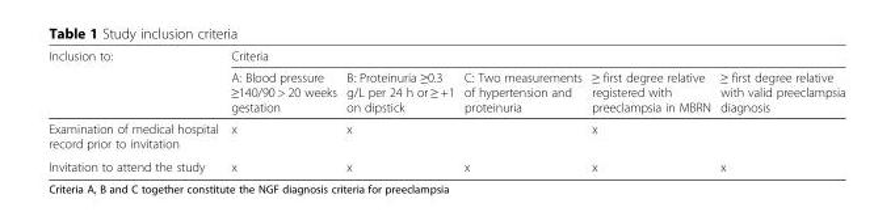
<table><thead><tr><td rowspan="2">Inclusion to:</td><td colspan="5">Criteria</td></tr><tr><td>A: Blood pressure ≥140/90 &gt; 20 weeks gestation</td><td>B: Proteinuria ≥0.3 g/L per 24 h or ≥ +1 on dipstick</td><td>C: Two measurements of hypertension and proteinuria</td><td>≥ first degree relative registered with preeclampsia in MBRN</td><td>≥ first degree relative with valid preeclampsia diagnosis</td></tr></thead><tbody><tr><td>Examination of medical hospital record prior to invitation</td><td>x</td><td>x</td><td></td><td>x</td><td></td></tr><tr><td>Invitation to attend the study</td><td>x</td><td>x</td><td>x</td><td>x</td><td>x</td></tr></tbody></table>